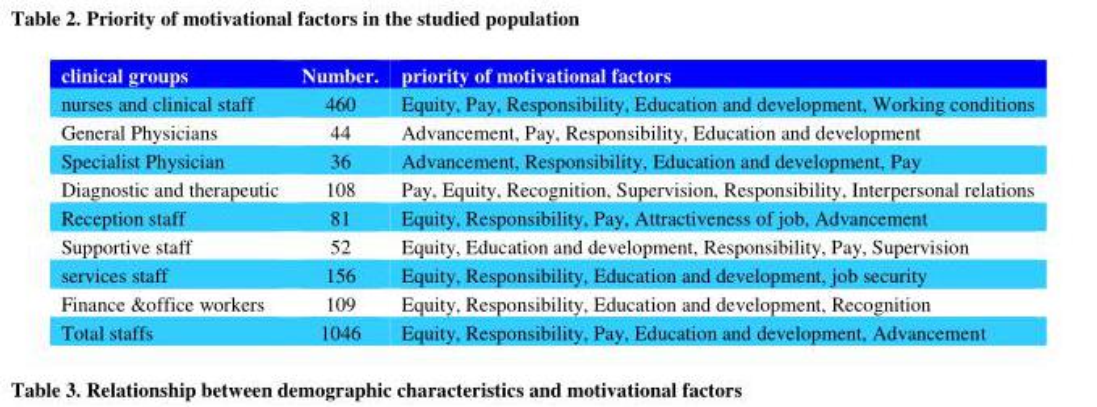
<table><thead><tr><td>clinical groups</td><td>Number.</td><td>priority of motivational factors</td></tr></thead><tbody><tr><td>nurses and clinical staff</td><td>460</td><td>Equity, Pay, Responsibility, Education and development, Working conditions</td></tr><tr><td>General Physicians</td><td>44</td><td>Advancement, Pay, Responsibility, Education and development</td></tr><tr><td>Specialist Physician</td><td>36</td><td>Advancement, Responsibility, Education and development, Pay</td></tr><tr><td>Diagnostic and therapeutic</td><td>108</td><td>Pay, Equity, Recognition, Supervision, Responsibility, Interpersonal relations</td></tr><tr><td>Reception staff</td><td>81</td><td>Equity, Responsibility, Pay, Attractiveness of job, Advancement</td></tr><tr><td>Supportive staff</td><td>52</td><td>Equity, Education and development, Responsibility, Pay, Supervision</td></tr><tr><td>services staff</td><td>156</td><td>Equity, Responsibility, Education and development, job security</td></tr><tr><td>Finance &amp;office workers</td><td>109</td><td>Equity, Responsibility, Education and development, Recognition</td></tr><tr><td>Total staffs</td><td>1046</td><td>Equity, Responsibility, Pay, Education and development, Advancement</td></tr></tbody></table>